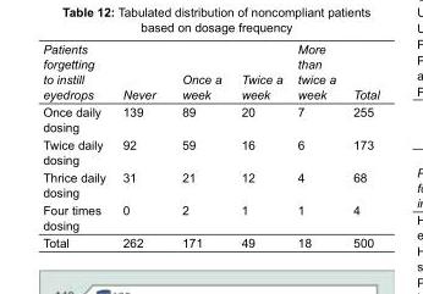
<table><tbody><tr><td>Patients forgetting to instill eyedrops</td><td>Never</td><td>Once a week</td><td>Twice a week</td><td>More than twice a week</td><td>Total</td></tr><tr><td>Once daily dosing</td><td>139</td><td>89</td><td>20</td><td>7</td><td>255</td></tr><tr><td>Twice daily dosing</td><td>92</td><td>59</td><td>16</td><td>6</td><td>173</td></tr><tr><td>Thrice daily dosing</td><td>31</td><td>21</td><td>12</td><td>4</td><td>68</td></tr><tr><td>Four times dosing</td><td>0</td><td>2</td><td>1</td><td>1</td><td>4</td></tr><tr><td>Total</td><td>262</td><td>171</td><td>49</td><td>18</td><td>500</td></tr></tbody></table>